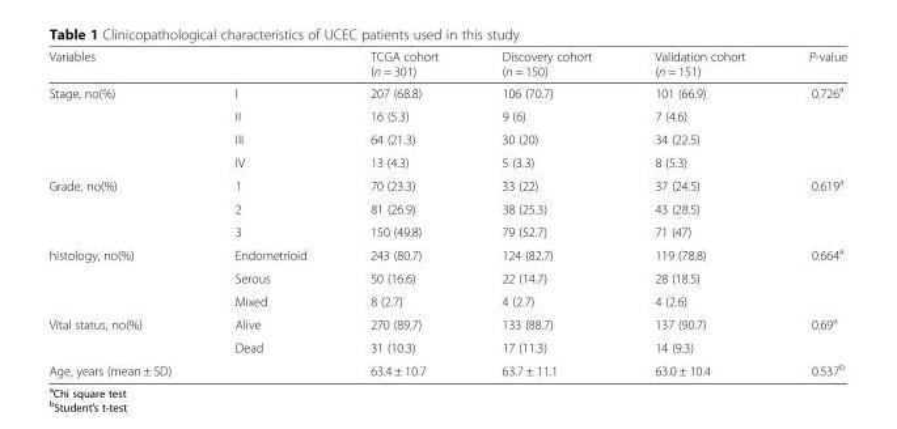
<table><thead><tr><td>Variables</td><td></td><td>TCGA cohort (n = 301)</td><td>Discovery cohort (n = 150)</td><td>Validation cohort (n = 151)</td><td>P-value</td></tr></thead><tbody><tr><td rowspan="4">Stage, no(%)</td><td>I</td><td>207 (68.8)</td><td>106 (70.7)</td><td>101 (66.9)</td><td>0.726<sup>a</sup></td></tr><tr><td>II</td><td>16 (5.3)</td><td>9 (6)</td><td>7 (4.6)</td><td></td></tr><tr><td>III</td><td>64 (21.3)</td><td>30 (20)</td><td>34 (22.5)</td><td></td></tr><tr><td>IV</td><td>13 (4.3)</td><td>5 (3.3)</td><td>8 (5.3)</td><td></td></tr><tr><td rowspan="3">Grade, no(%)</td><td>1</td><td>70 (23.3)</td><td>33 (22)</td><td>37 (24.5)</td><td>0.619<sup>a</sup></td></tr><tr><td>2</td><td>81 (26.9)</td><td>38 (25.3)</td><td>43 (28.5)</td><td></td></tr><tr><td>3</td><td>150 (49.8)</td><td>79 (52.7)</td><td>71 (47)</td><td></td></tr><tr><td rowspan="3">histology, no(%)</td><td>Endometrioid</td><td>243 (80.7)</td><td>124 (82.7)</td><td>119 (78.8)</td><td>0.664<sup>a</sup></td></tr><tr><td>Serous</td><td>50 (16.6)</td><td>22 (14.7)</td><td>28 (18.5)</td><td></td></tr><tr><td>Mixed</td><td>8 (2.7)</td><td>4 (2.7)</td><td>4 (2.6)</td><td></td></tr><tr><td rowspan="2">Vital status, no(%)</td><td>Alive</td><td>270 (89.7)</td><td>133 (88.7)</td><td>137 (90.7)</td><td>0.69<sup>a</sup></td></tr><tr><td>Dead</td><td>31 (10.3)</td><td>17 (11.3)</td><td>14 (9.3)</td><td></td></tr><tr><td>Age, years (mean ± SD)</td><td></td><td>63.4 ± 10.7</td><td>63.7 ± 11.1</td><td>63.0 ± 10.4</td><td>0.537<sup>b</sup></td></tr></tbody></table>